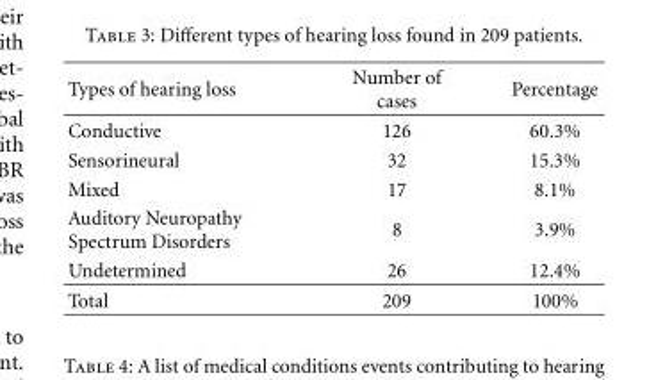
<table><thead><tr><td>Types of hearing loss</td><td>Number of cases</td><td>Percentage</td></tr></thead><tbody><tr><td>Conductive</td><td>126</td><td>60.3%</td></tr><tr><td>Sensorineural</td><td>32</td><td>15.3%</td></tr><tr><td>Mixed</td><td>17</td><td>8.1%</td></tr><tr><td>Auditory Neuropathy Spectrum Disorders</td><td>8</td><td>3.9%</td></tr><tr><td>Undetermined</td><td>26</td><td>12.4%</td></tr><tr><td>Total</td><td>209</td><td>100%</td></tr></tbody></table>